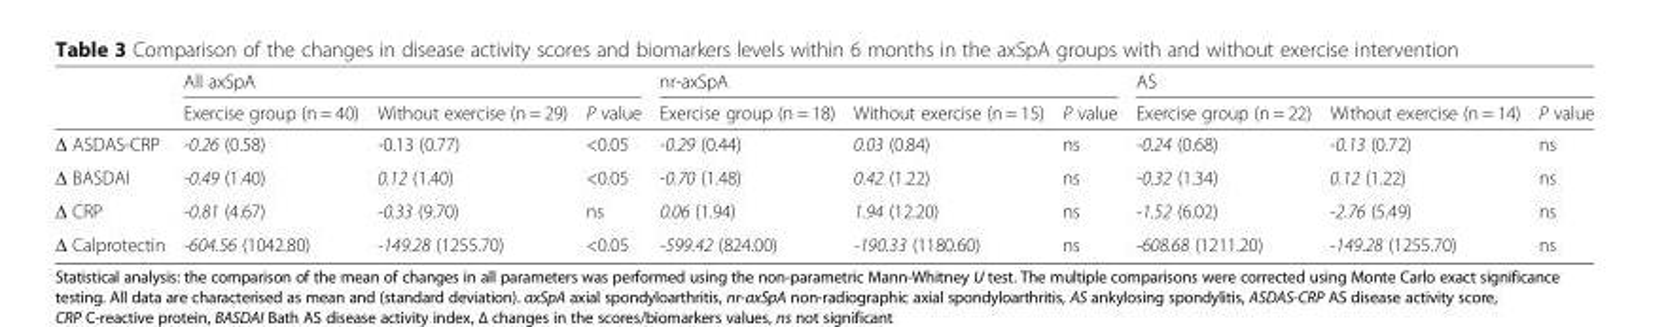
<table><thead><tr><td rowspan="2"></td><td colspan="3">All axSpA</td><td colspan="3">nr-axSpA</td><td colspan="3">AS</td></tr><tr><td>Exercise group (n = 40)</td><td>Without exercise (n = 29)</td><td>P value</td><td>Exercise group (n = 18)</td><td>Without exercise (n = 15)</td><td>P value</td><td>Exercise group (n = 22)</td><td>Without exercise (n = 14)</td><td>P value</td></tr></thead><tbody><tr><td>ASDAS-CRP</td><td>-0.26 (0.58)</td><td>-0.13 (0.77)</td><td>&lt;0.05</td><td>-0.29 (0.44)</td><td>0.03 (0.84)</td><td>ns</td><td>-0.24 (0.68)</td><td>-0.13 (0.72)</td><td>ns</td></tr><tr><td>BASDAI</td><td>-0.49 (1.40)</td><td>0.12 (1.40)</td><td>&lt;0.05</td><td>-0.70 (1.48)</td><td>0.42 (1.22)</td><td>ns</td><td>-0.32 (1.34)</td><td>0.12 (1.22)</td><td>ns</td></tr><tr><td>CRP</td><td>-0.81 (4.67)</td><td>-0.33 (9.70)</td><td>ns</td><td>0.06 (1.94)</td><td>1.94 (12.20)</td><td>ns</td><td>-1.52 (6.02)</td><td>-2.76 (5.49)</td><td>ns</td></tr><tr><td>Calprotectin</td><td>-604.56 (1042.80)</td><td>-149.28 (1255.70)</td><td>&lt;0.05</td><td>-599.42 (824.00)</td><td>-190.33 (1180.60)</td><td>ns</td><td>-608.68 (1211.20)</td><td>-149.28 (1255.70)</td><td>ns</td></tr></tbody></table>